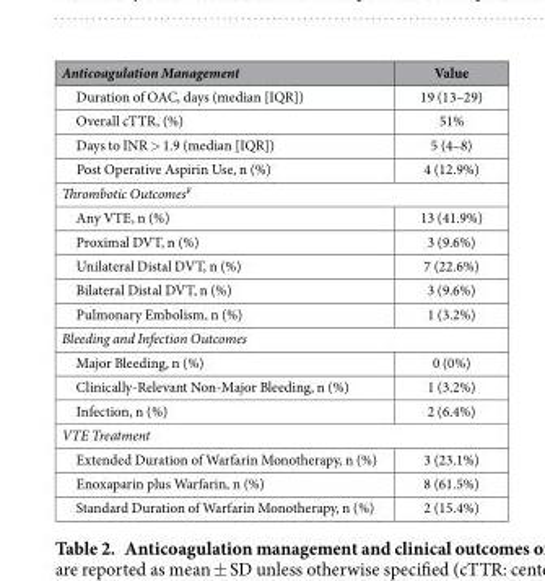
<table><thead><tr><td>Anticoagulation Management</td><td>Value</td></tr></thead><tbody><tr><td>Duration of OAC, days (median [IQR])</td><td>19 (13–29)</td></tr><tr><td>Overall cTTR, (%)</td><td>51%</td></tr><tr><td>Days to INR &gt; 1.9 (median [IQR])</td><td>5 (4–8)</td></tr><tr><td>Post Operative Aspirin Use, n (%)</td><td>4 (12.9%)</td></tr><tr><td colspan="2">Thrombotic Outcomes<sup>¥</sup></td></tr><tr><td>Any VTE, n (%)</td><td>13 (41.9%)</td></tr><tr><td>Proximal DVT, n (%)</td><td>3 (9.6%)</td></tr><tr><td>Unilateral Distal DVT, n (%)</td><td>7 (22.6%)</td></tr><tr><td>Bilateral Distal DVT, n (%)</td><td>3 (9.6%)</td></tr><tr><td>Pulmonary Embolism, n (%)</td><td>1 (3.2%)</td></tr><tr><td colspan="2">Bleeding and Infection Outcomes</td></tr><tr><td>Major Bleeding, n (%)</td><td>0 (0%)</td></tr><tr><td>Clinically-Relevant Non-Major Bleeding, n (%)</td><td>1 (3.2%)</td></tr><tr><td>Infection, n (%)</td><td>2 (6.4%)</td></tr><tr><td colspan="2">VTE Treatment</td></tr><tr><td>Extended Duration of Warfarin Monotherapy, n (%)</td><td>3 (23.1%)</td></tr><tr><td>Enoxaparin plus Warfarin, n (%)</td><td>8 (61.5%)</td></tr><tr><td>Standard Duration of Warfarin Monotherapy, n (%)</td><td>2 (15.4%)</td></tr></tbody></table>